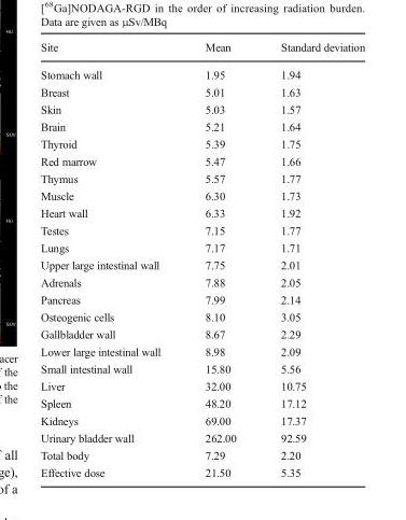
<table><thead><tr><td>Site</td><td>Mean</td><td>Standard deviation</td></tr></thead><tbody><tr><td>Stomach wall</td><td>1.95</td><td>1.94</td></tr><tr><td>Breast</td><td>5.01</td><td>1.63</td></tr><tr><td>Skin</td><td>5.03</td><td>1.57</td></tr><tr><td>Brain</td><td>5.21</td><td>1.64</td></tr><tr><td>Thyroid</td><td>5.39</td><td>1.75</td></tr><tr><td>Red marrow</td><td>5.47</td><td>1.66</td></tr><tr><td>Thymus</td><td>5.57</td><td>1.77</td></tr><tr><td>Muscle</td><td>6.30</td><td>1.73</td></tr><tr><td>Heart wall</td><td>6.33</td><td>1.92</td></tr><tr><td>Testes</td><td>7.15</td><td>1.77</td></tr><tr><td>Lungs</td><td>7.17</td><td>1.71</td></tr><tr><td>Upper large intestinal wall</td><td>7.75</td><td>2.01</td></tr><tr><td>Adrenals</td><td>7.88</td><td>2.05</td></tr><tr><td>Pancreas</td><td>7.99</td><td>2.14</td></tr><tr><td>Osteogenic cells</td><td>8.10</td><td>3.05</td></tr><tr><td>Gallbladder wall</td><td>8.67</td><td>2.29</td></tr><tr><td>Lower large intestinal wall</td><td>8.98</td><td>2.09</td></tr><tr><td>Small intestinal wall</td><td>15.80</td><td>5.56</td></tr><tr><td>Liver</td><td>32.00</td><td>10.75</td></tr><tr><td>Spleen</td><td>48.20</td><td>17.12</td></tr><tr><td>Kidneys</td><td>69.00</td><td>17.37</td></tr><tr><td>Urinary bladder wall</td><td>262.00</td><td>92.59</td></tr><tr><td>Total body</td><td>7.29</td><td>2.20</td></tr><tr><td>Effective dose</td><td>21.50</td><td>5.35</td></tr></tbody></table>